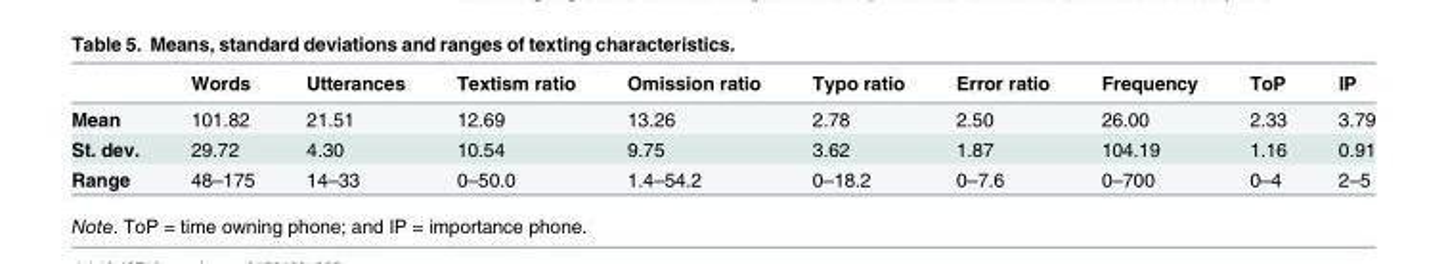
<table><thead><tr><td></td><td>Words</td><td>Utterances</td><td>Textism ratio</td><td>Omission ratio</td><td>Typo ratio</td><td>Error ratio</td><td>Frequency</td><td>ToP</td><td>IP</td></tr></thead><tbody><tr><td>Mean</td><td>101.82</td><td>21.51</td><td>12.69</td><td>13.26</td><td>2.78</td><td>2.50</td><td>26.00</td><td>2.33</td><td>3.79</td></tr><tr><td>St. dev.</td><td>29.72</td><td>4.30</td><td>10.54</td><td>9.75</td><td>3.62</td><td>1.87</td><td>104.19</td><td>1.16</td><td>0.91</td></tr><tr><td>Range</td><td>48–175</td><td>14–33</td><td>0–50.0</td><td>1.4–54.2</td><td>0–18.2</td><td>0–7.6</td><td>0–700</td><td>0–4</td><td>2–5</td></tr></tbody></table>